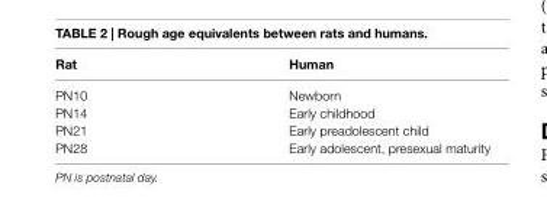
<table><thead><tr><td>rat</td><td>human</td></tr></thead><tbody><tr><td>PN10</td><td>Newborn</td></tr><tr><td>PN14</td><td>Early childhood</td></tr><tr><td>PN21</td><td>Early preadolescent child</td></tr><tr><td>PN28</td><td>Early adolescent, presexual maturity</td></tr></tbody></table>